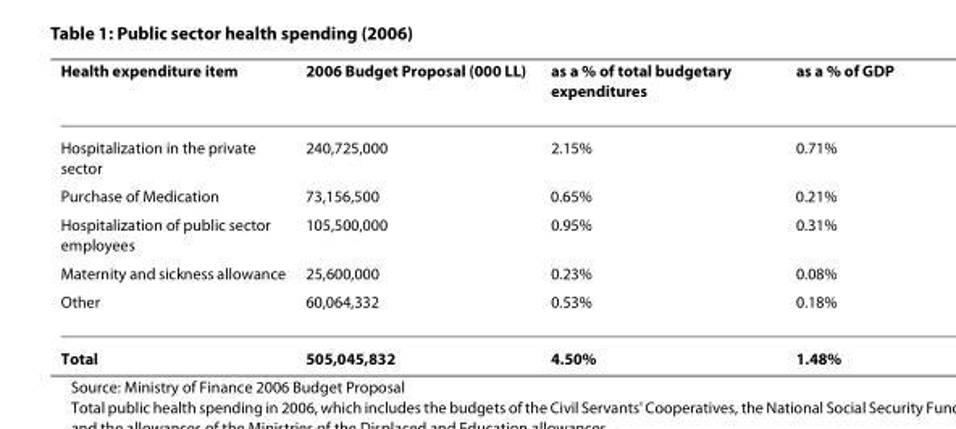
<table><thead><tr><td>Health expenditure item</td><td>2006 Budget Proposal (000 LL)</td><td>as a % of total budgetary expenditures</td><td>as a % of GDP</td></tr></thead><tbody><tr><td>Hospitalization in the private sector</td><td>240,725,000</td><td>2.15%</td><td>0.71%</td></tr><tr><td>Purchase of Medication</td><td>73,156,500</td><td>0.65%</td><td>0.21%</td></tr><tr><td>Hospitalization of public sector employees</td><td>105,500,000</td><td>0.95%</td><td>0.31%</td></tr><tr><td>Maternity and sickness allowance</td><td>25,600,000</td><td>0.23%</td><td>0.08%</td></tr><tr><td>Other</td><td>60,064,332</td><td>0.53%</td><td>0.18%</td></tr><tr><td>Total</td><td>505,045,832</td><td>4.50%</td><td>1.48%</td></tr></tbody></table>